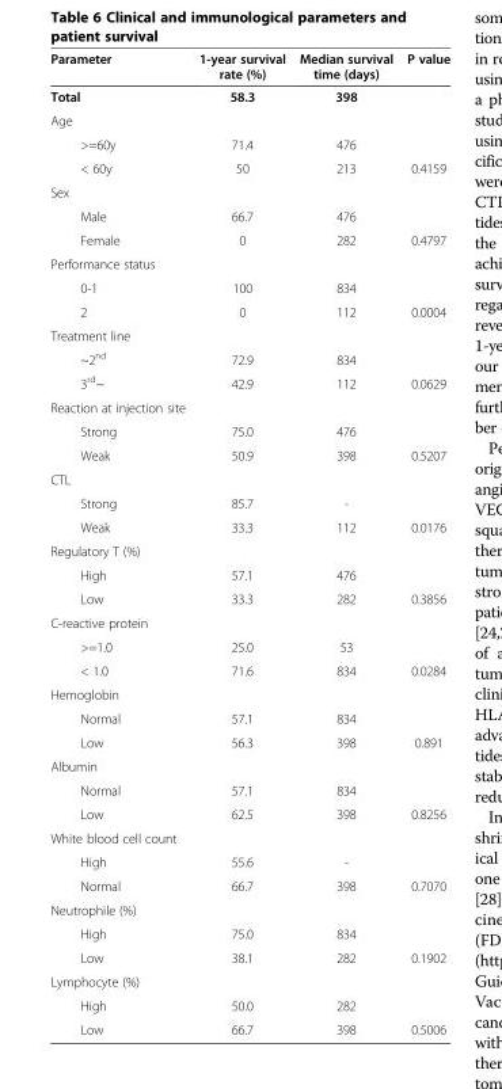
<table><thead><tr><td>Parameter</td><td>1-year survival rate (%)</td><td>Median survival time (days)</td><td>P value</td></tr></thead><tbody><tr><td>Total</td><td>58.3</td><td>398</td><td></td></tr><tr><td colspan="4">Age</td></tr><tr><td>&gt;=60y</td><td>71.4</td><td>476</td><td></td></tr><tr><td>&lt; 60y</td><td>50</td><td>213</td><td>0.4159</td></tr><tr><td colspan="4">Sex</td></tr><tr><td>Male</td><td>66.7</td><td>476</td><td></td></tr><tr><td>Female</td><td>0</td><td>282</td><td>0.4797</td></tr><tr><td colspan="4">Performance status</td></tr><tr><td>0-1</td><td>100</td><td>834</td><td></td></tr><tr><td>2</td><td>0</td><td>112</td><td>0.0004</td></tr><tr><td colspan="4">Treatment line</td></tr><tr><td>~2<sup>nd</sup></td><td>72.9</td><td>834</td><td></td></tr><tr><td>3<sup>rd</sup>~</td><td>42.9</td><td>112</td><td>0.0629</td></tr><tr><td colspan="4">Reaction at injection site</td></tr><tr><td>Strong</td><td>75.0</td><td>476</td><td></td></tr><tr><td>Weak</td><td>50.9</td><td>398</td><td>0.5207</td></tr><tr><td colspan="4">CTL</td></tr><tr><td>Strong</td><td>85.7</td><td>-</td><td></td></tr><tr><td>Weak</td><td>33.3</td><td>112</td><td>0.0176</td></tr><tr><td colspan="4">Regulatory T (%)</td></tr><tr><td>High</td><td>57.1</td><td>476</td><td></td></tr><tr><td>Low</td><td>33.3</td><td>282</td><td>0.3856</td></tr><tr><td colspan="4">C-reactive protein</td></tr><tr><td>&gt;=1.0</td><td>25.0</td><td>53</td><td></td></tr><tr><td>&lt; 1.0</td><td>71.6</td><td>834</td><td>0.0284</td></tr><tr><td colspan="4">Hemoglobin</td></tr><tr><td>Normal</td><td>57.1</td><td>834</td><td></td></tr><tr><td>Low</td><td>56.3</td><td>398</td><td>0.891</td></tr><tr><td colspan="4">Albumin</td></tr><tr><td>Normal</td><td>57.1</td><td>834</td><td></td></tr><tr><td>Low</td><td>62.5</td><td>398</td><td>0.8256</td></tr><tr><td colspan="4">White blood cell count</td></tr><tr><td>High</td><td>55.6</td><td>-</td><td></td></tr><tr><td>Normal</td><td>66.7</td><td>398</td><td>0.7070</td></tr><tr><td colspan="4">Neutrophile (%)</td></tr><tr><td>High</td><td>75.0</td><td>834</td><td></td></tr><tr><td>Low</td><td>38.1</td><td>282</td><td>0.1902</td></tr><tr><td colspan="4">Lymphocyte (%)</td></tr><tr><td>High</td><td>50.0</td><td>282</td><td></td></tr><tr><td>Low</td><td>66.7</td><td>398</td><td>0.5006</td></tr></tbody></table>